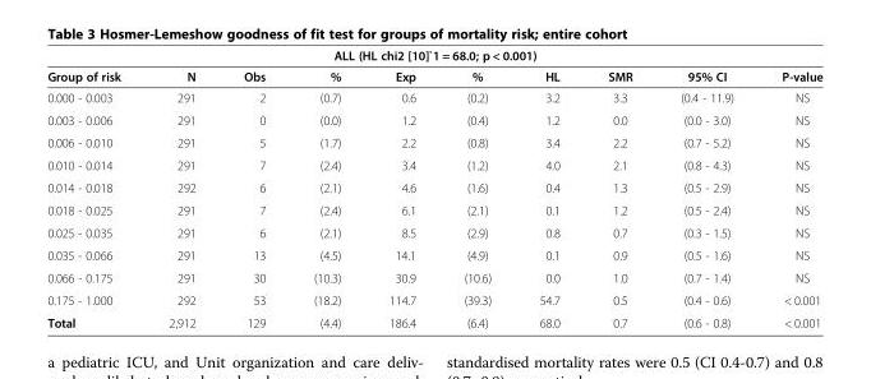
<table><thead><tr><td colspan="10">ALL (HL chi2 [10]`1 = 68.0; p &lt; 0.001)</td></tr><tr><td>Group of risk</td><td>N</td><td>Obs</td><td>%</td><td>Exp</td><td>%</td><td>HL</td><td>SMR</td><td>95% CI</td><td>P-value</td></tr></thead><tbody><tr><td>0.000 - 0.003</td><td>291</td><td>2</td><td>(0.7)</td><td>0.6</td><td>(0.2)</td><td>3.2</td><td>3.3</td><td>(0.4 - 11.9)</td><td>NS</td></tr><tr><td>0.003 - 0.006</td><td>291</td><td>0</td><td>(0.0)</td><td>1.2</td><td>(0.4)</td><td>1.2</td><td>0.0</td><td>(0.0 - 3.0)</td><td>NS</td></tr><tr><td>0.006 - 0.010</td><td>291</td><td>5</td><td>(1.7)</td><td>2.2</td><td>(0.8)</td><td>3.4</td><td>2.2</td><td>(0.7 - 5.2)</td><td>NS</td></tr><tr><td>0.010 - 0.014</td><td>291</td><td>7</td><td>(2.4)</td><td>3.4</td><td>(1.2)</td><td>4.0</td><td>2.1</td><td>(0.8 - 4.3)</td><td>NS</td></tr><tr><td>0.014 - 0.018</td><td>292</td><td>6</td><td>(2.1)</td><td>4.6</td><td>(1.6)</td><td>0.4</td><td>1.3</td><td>(0.5 - 2.9)</td><td>NS</td></tr><tr><td>0.018 - 0.025</td><td>291</td><td>7</td><td>(2.4)</td><td>6.1</td><td>(2.1)</td><td>0.1</td><td>1.2</td><td>(0.5 - 2.4)</td><td>NS</td></tr><tr><td>0.025 - 0.035</td><td>291</td><td>6</td><td>(2.1)</td><td>8.5</td><td>(2.9)</td><td>0.8</td><td>0.7</td><td>(0.3 - 1.5)</td><td>NS</td></tr><tr><td>0.035 - 0.066</td><td>291</td><td>13</td><td>(4.5)</td><td>14.1</td><td>(4.9)</td><td>0.1</td><td>0.9</td><td>(0.5 - 1.6)</td><td>NS</td></tr><tr><td>0.066 - 0.175</td><td>291</td><td>30</td><td>(10.3)</td><td>30.9</td><td>(10.6)</td><td>0.0</td><td>1.0</td><td>(0.7 - 1.4)</td><td>NS</td></tr><tr><td>0.175 - 1.000</td><td>292</td><td>53</td><td>(18.2)</td><td>114.7</td><td>(39.3)</td><td>54.7</td><td>0.5</td><td>(0.4 - 0.6)</td><td>&lt; 0.001</td></tr><tr><td>Total</td><td>2,912</td><td>129</td><td>(4.4)</td><td>186.4</td><td>(6.4)</td><td>68.0</td><td>0.7</td><td>(0.6 - 0.8)</td><td>&lt; 0.001</td></tr></tbody></table>